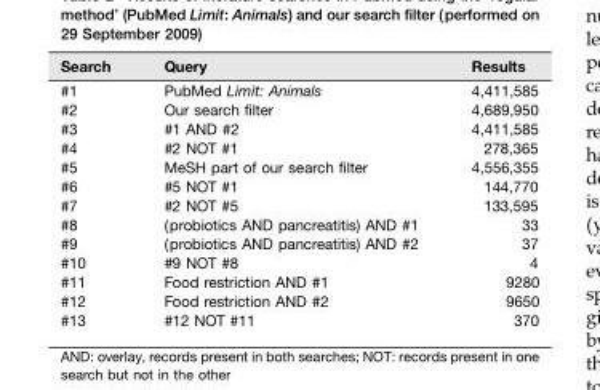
<table><thead><tr><td>Search</td><td>Query</td><td>Results</td></tr></thead><tbody><tr><td>#1</td><td>PubMed Limit: Animals</td><td>4,411,585</td></tr><tr><td>#2</td><td>Our search filter</td><td>4,689,950</td></tr><tr><td>#3</td><td>#1 AND #2</td><td>4,411,585</td></tr><tr><td>#4</td><td>#2 NOT #1</td><td>278,365</td></tr><tr><td>#5</td><td>MeSH part of our search filter</td><td>4,556,355</td></tr><tr><td>#6</td><td>#5 NOT #1</td><td>144,770</td></tr><tr><td>#7</td><td>#2 NOT #5</td><td>133,595</td></tr><tr><td>#8</td><td>(probiotics AND pancreatitis) AND #1</td><td>33</td></tr><tr><td>#9</td><td>(probiotics AND pancreatitis) AND #2</td><td>37</td></tr><tr><td>#10</td><td>#9 NOT #8</td><td>4</td></tr><tr><td>#11</td><td>Food restriction AND #1</td><td>9280</td></tr><tr><td>#12</td><td>Food restriction AND #2</td><td>9650</td></tr><tr><td>#13</td><td>#12 NOT #11</td><td>370</td></tr></tbody></table>